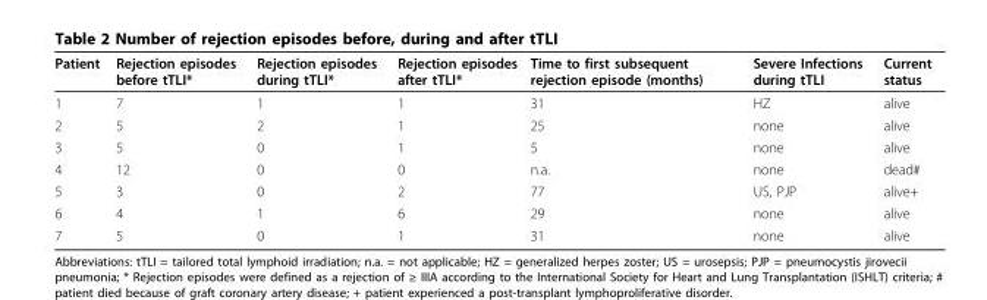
<table><thead><tr><td>Patient</td><td>Rejection episodes before tTLI*</td><td>Rejection episodes during tTLI*</td><td>Rejection episodes after tTLI*</td><td>Time to first subsequent rejection episode (months)</td><td>Severe Infections during tTLI</td><td>Current status</td></tr></thead><tbody><tr><td>1</td><td>7</td><td>1</td><td>1</td><td>31</td><td>HZ</td><td>alive</td></tr><tr><td>2</td><td>5</td><td>2</td><td>1</td><td>25</td><td>none</td><td>alive</td></tr><tr><td>3</td><td>5</td><td>0</td><td>1</td><td>5</td><td>none</td><td>alive</td></tr><tr><td>4</td><td>12</td><td>0</td><td>0</td><td>n.a.</td><td>none</td><td>dead#</td></tr><tr><td>5</td><td>3</td><td>0</td><td>2</td><td>77</td><td>US, PJP</td><td>alive+</td></tr><tr><td>6</td><td>4</td><td>1</td><td>6</td><td>29</td><td>none</td><td>alive</td></tr><tr><td>7</td><td>5</td><td>0</td><td>1</td><td>31</td><td>none</td><td>alive</td></tr></tbody></table>